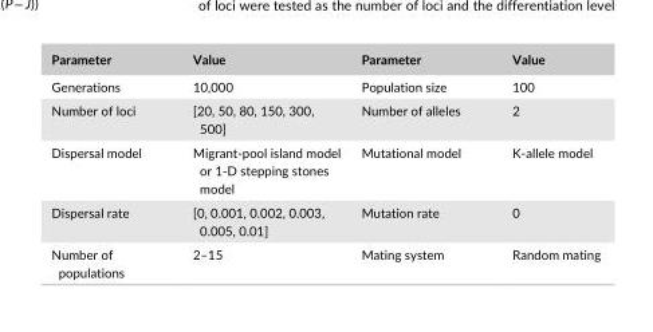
<table><thead><tr><td>Parameter</td><td>Value</td><td>Parameter</td><td>Value</td></tr></thead><tbody><tr><td>Generations</td><td>10,000</td><td>Population size</td><td>100</td></tr><tr><td>Number of loci</td><td>[20, 50, 80, 150, 300, 500]</td><td>Number of alleles</td><td>2</td></tr><tr><td>Dispersal model</td><td>Migrant- pool island model or 1- D stepping stones model</td><td>Mutational model</td><td>K- allele model</td></tr><tr><td>Dispersal rate</td><td>[0, 0.001, 0.002, 0.003, 0.005, 0.01]</td><td>Mutation rate</td><td>0</td></tr><tr><td>Number of populations</td><td>2–15</td><td>Mating system</td><td>Random mating</td></tr></tbody></table>